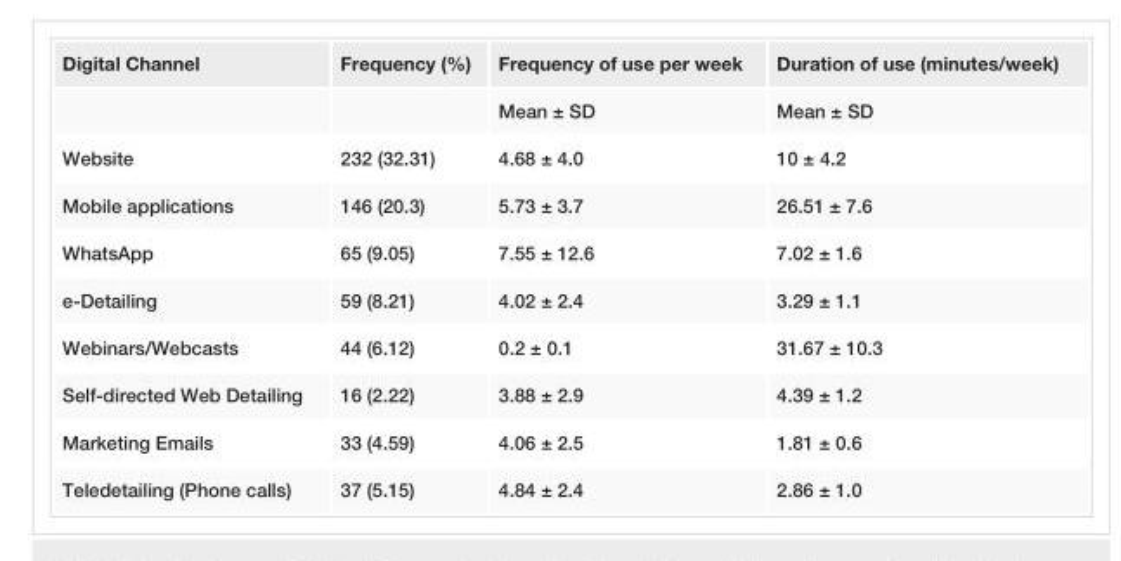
<table><tbody><tr><td rowspan="2">Digital Channel</td><td>Frequency (%)</td><td>Frequency of use per week</td><td>Duration of use (minutes/week)</td></tr><tr><td></td><td>Mean ± SD</td><td>Mean ± SD</td></tr><tr><td>Website</td><td>232 (32.31)</td><td>4.68 ± 4.0</td><td>10 ± 4.2</td></tr><tr><td>Mobile applications</td><td>146 (20.3)</td><td>5.73 ± 3.7</td><td>26.51 ± 7.6</td></tr><tr><td>WhatsApp</td><td>65 (9.05)</td><td>7.55 ± 12.6</td><td>7.02 ± 1.6</td></tr><tr><td>e-Detailing</td><td>59 (8.21)</td><td>4.02 ± 2.4</td><td>3.29 ± 1.1</td></tr><tr><td>Webinars/Webcasts</td><td>44 (6.12)</td><td>0.2 ± 0.1</td><td>31.67 ± 10.3</td></tr><tr><td>Self-directed Web Detailing</td><td>16 (2.22)</td><td>3.88 ± 2.9</td><td>4.39 ± 1.2</td></tr><tr><td>Marketing Emails</td><td>33 (4.59)</td><td>4.06 ± 2.5</td><td>1.81 ± 0.6</td></tr><tr><td>Teledetailing (Phone calls)</td><td>37 (5.15)</td><td>4.84 ± 2.4</td><td>2.86 ± 1.0</td></tr></tbody></table>